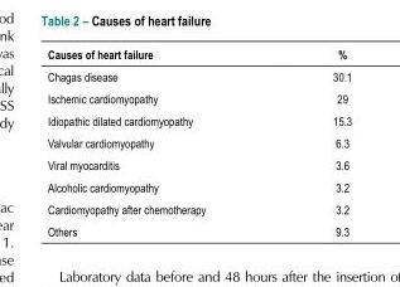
<table><thead><tr><td>Causes of heart failure</td><td>%</td></tr></thead><tbody><tr><td>Chagas disease</td><td>30.1</td></tr><tr><td>Ischemic cardiomyopathy</td><td>29</td></tr><tr><td>Idiopathic dilated cardiomyopathy</td><td>15.3</td></tr><tr><td>Valvular cardiomyopathy</td><td>6.3</td></tr><tr><td>Viral myocarditis</td><td>3.6</td></tr><tr><td>Alcoholic cardiomyopathy</td><td>3.2</td></tr><tr><td>Cardiomyopathy after chemotherapy</td><td>3.2</td></tr><tr><td>Others</td><td>9.3</td></tr></tbody></table>